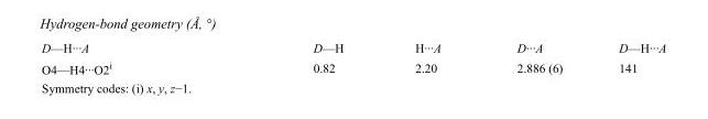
<table><tbody><tr><td>D—H···A</td><td>D—H</td><td>H···A</td><td>D···A</td><td>D—H···A</td></tr><tr><td>O4—H4···O2<sup>i</sup></td><td>0.82</td><td>2.20</td><td>2.886 (6)</td><td>141</td></tr></tbody></table>